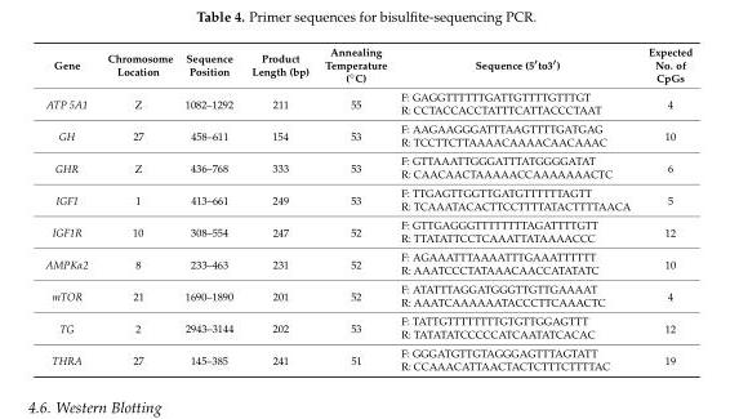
<table><thead><tr><td>Gene</td><td>Chromosome Location</td><td>Sequence Position</td><td>Product Length (bp)</td><td>Annealing Temperature (◦C)</td><td>Sequence (5′to3′)</td><td>Expected No. of CpGs</td></tr></thead><tbody><tr><td rowspan="2">ATP 5A1</td><td rowspan="2">Z</td><td rowspan="2">1082–1292</td><td rowspan="2">211</td><td rowspan="2">55</td><td>F: GAGGTTTTTTGATTGTTTTGTTTGT</td><td rowspan="2">4</td></tr><tr><td>R: CCTACCACCTATTTCATTACCCTAAT</td></tr><tr><td rowspan="2">GH</td><td rowspan="2">27</td><td rowspan="2">458–611</td><td rowspan="2">154</td><td rowspan="2">53</td><td>F: AAGAAGGGATTTAAGTTTTGATGAG</td><td rowspan="2">10</td></tr><tr><td>R: TCCTTCTTAAAACAAAACAACAAAC</td></tr><tr><td rowspan="2">GHR</td><td rowspan="2">Z</td><td rowspan="2">436–768</td><td rowspan="2">333</td><td rowspan="2">53</td><td>F: GTTAAATTGGGATTTATGGGGATAT</td><td rowspan="2">6</td></tr><tr><td>R: CAACAACTAAAAACCAAAAAAACTC</td></tr><tr><td rowspan="2">IGF1</td><td rowspan="2">1</td><td rowspan="2">413–661</td><td rowspan="2">249</td><td rowspan="2">53</td><td>F: TTGAGTTGGTTGATGTTTTTTAGTT</td><td rowspan="2">5</td></tr><tr><td>R: TCAAATACACTTCCTTTTATACTTTTAACA</td></tr><tr><td rowspan="2">IGF1R</td><td rowspan="2">10</td><td rowspan="2">308–554</td><td rowspan="2">247</td><td rowspan="2">52</td><td>F: GTTGAGGGTTTTTTTTAGATTTTGTT</td><td rowspan="2">12</td></tr><tr><td>R: TTATATTCCTCAAATTATAAAACCC</td></tr><tr><td rowspan="2">AMPKα2</td><td rowspan="2">8</td><td rowspan="2">233–463</td><td rowspan="2">231</td><td rowspan="2">52</td><td>F: AGAAATTTAAAATTTGAAATTTTTT</td><td rowspan="2">10</td></tr><tr><td>R: AAATCCCTATAAACAACCATATATC</td></tr><tr><td rowspan="2">mTOR</td><td rowspan="2">21</td><td rowspan="2">1690–1890</td><td rowspan="2">201</td><td rowspan="2">52</td><td>F: ATATTTAGGATGGGTTGTTGAAAAT</td><td rowspan="2">4</td></tr><tr><td>R: AAATCAAAAAATACCCTTCAAACTC</td></tr><tr><td rowspan="2">TG</td><td rowspan="2">2</td><td rowspan="2">2943–3144</td><td rowspan="2">202</td><td rowspan="2">53</td><td>F: TATTGTTTTTTTTGTGTTGGAGTTT</td><td rowspan="2">12</td></tr><tr><td>R: TATATATCCCCCATCAATATCACAC</td></tr><tr><td rowspan="2">THRA</td><td rowspan="2">27</td><td rowspan="2">145–385</td><td rowspan="2">241</td><td rowspan="2">51</td><td>F: GGGATGTTGTAGGGAGTTTAGTATT</td><td rowspan="2">19</td></tr><tr><td>R: CCAAACATTAACTACTCTTTCTTTTAC</td></tr></tbody></table>